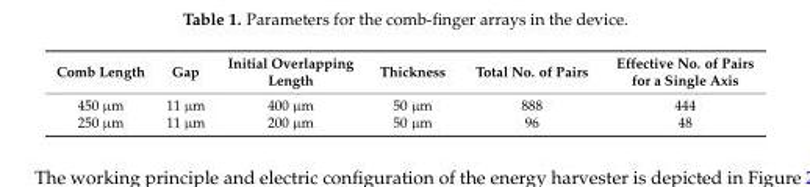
<table><thead><tr><td>Comb Length</td><td>Gap</td><td>Initial Overlapping Length</td><td>Thickness</td><td>Total No. of Pairs</td><td>Effective No. of Pairs for a Single Axis</td></tr></thead><tbody><tr><td>450 µm</td><td>11 µm</td><td>400 µm</td><td>50 µm</td><td>888</td><td>444</td></tr><tr><td>250 µm</td><td>11 µm</td><td>200 µm</td><td>50 µm</td><td>96</td><td>48</td></tr></tbody></table>